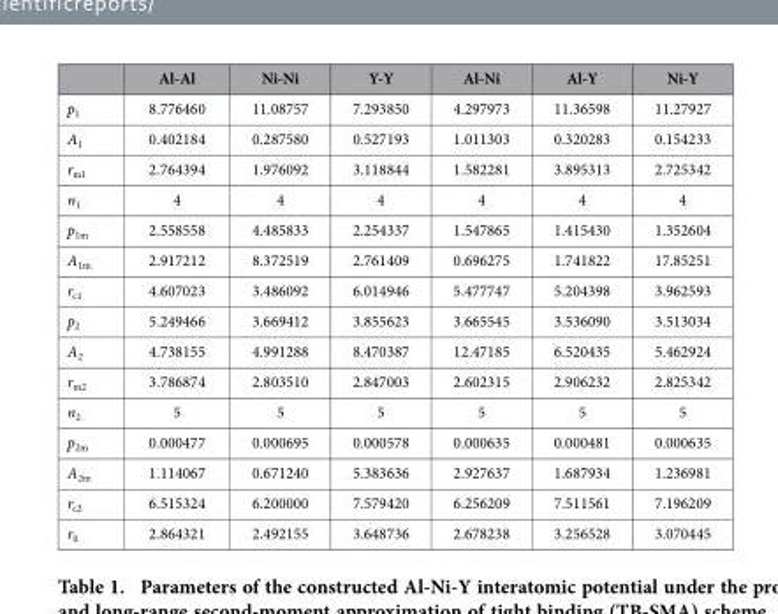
<table><thead><tr><td></td><td>Al-Al</td><td>Ni-Ni</td><td>Y-Y</td><td>Al-Ni</td><td>Al-Y</td><td>Ni-Y</td></tr></thead><tbody><tr><td>p<sub>1</sub></td><td>8.776460</td><td>11.08757</td><td>7.293850</td><td>4.297973</td><td>11.36598</td><td>11.27927</td></tr><tr><td>A<sub>1</sub></td><td>0.402184</td><td>0.287580</td><td>0.527193</td><td>1.011303</td><td>0.320283</td><td>0.154233</td></tr><tr><td>r<sub>m1</sub></td><td>2.764394</td><td>1.976092</td><td>3.118844</td><td>1.582281</td><td>3.895313</td><td>2.725342</td></tr><tr><td>n<sub>1</sub></td><td>4</td><td>4</td><td>4</td><td>4</td><td>4</td><td>4</td></tr><tr><td>p<sub>1m</sub></td><td>2.558558</td><td>4.485833</td><td>2.254337</td><td>1.547865</td><td>1.415430</td><td>1.352604</td></tr><tr><td>A<sub>1m</sub></td><td>2.917212</td><td>8.372519</td><td>2.761409</td><td>0.696275</td><td>1.741822</td><td>17.85251</td></tr><tr><td>r<sub>c1</sub></td><td>4.607023</td><td>3.486092</td><td>6.014946</td><td>5.477747</td><td>5.204398</td><td>3.962593</td></tr><tr><td>p<sub>2</sub></td><td>5.249466</td><td>3.669412</td><td>3.855623</td><td>3.665545</td><td>3.536090</td><td>3.513034</td></tr><tr><td>A<sub>2</sub></td><td>4.738155</td><td>4.991288</td><td>8.470387</td><td>12.47185</td><td>6.520435</td><td>5.462924</td></tr><tr><td>r<sub>m2</sub></td><td>3.786874</td><td>2.803510</td><td>2.847003</td><td>2.602315</td><td>2.906232</td><td>2.825342</td></tr><tr><td>n<sub>2</sub></td><td>5</td><td>5</td><td>5</td><td>5</td><td>5</td><td>5</td></tr><tr><td>p<sub>2m</sub></td><td>0.000477</td><td>0.000695</td><td>0.000578</td><td>0.000635</td><td>0.000481</td><td>0.000635</td></tr><tr><td>A<sub>2m</sub></td><td>1.114067</td><td>0.671240</td><td>5.383636</td><td>2.927637</td><td>1.687934</td><td>1.236981</td></tr><tr><td>r<sub>c2</sub></td><td>6.515324</td><td>6.200000</td><td>7.579420</td><td>6.256209</td><td>7.511561</td><td>7.196209</td></tr><tr><td>r<sub>0</sub></td><td>2.864321</td><td>2.492155</td><td>3.648736</td><td>2.678238</td><td>3.256528</td><td>3.070445</td></tr></tbody></table>